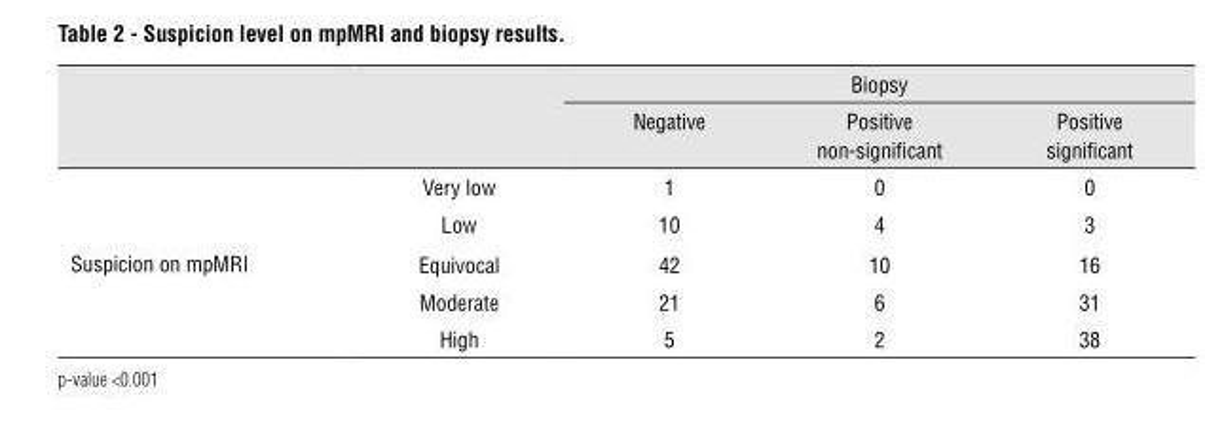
<table><thead><tr><td rowspan="2"></td><td rowspan="2"></td><td colspan="3">Biopsy</td></tr><tr><td>Negative</td><td>Positive non-significant</td><td>Positive significant</td></tr></thead><tbody><tr><td rowspan="5">Suspicion on mpMRI</td><td>Very low</td><td>1</td><td>0</td><td>0</td></tr><tr><td>Low</td><td>10</td><td>4</td><td>3</td></tr><tr><td>Equivocal</td><td>42</td><td>10</td><td>16</td></tr><tr><td>Moderate</td><td>21</td><td>6</td><td>31</td></tr><tr><td>High</td><td>5</td><td>2</td><td>38</td></tr></tbody></table>